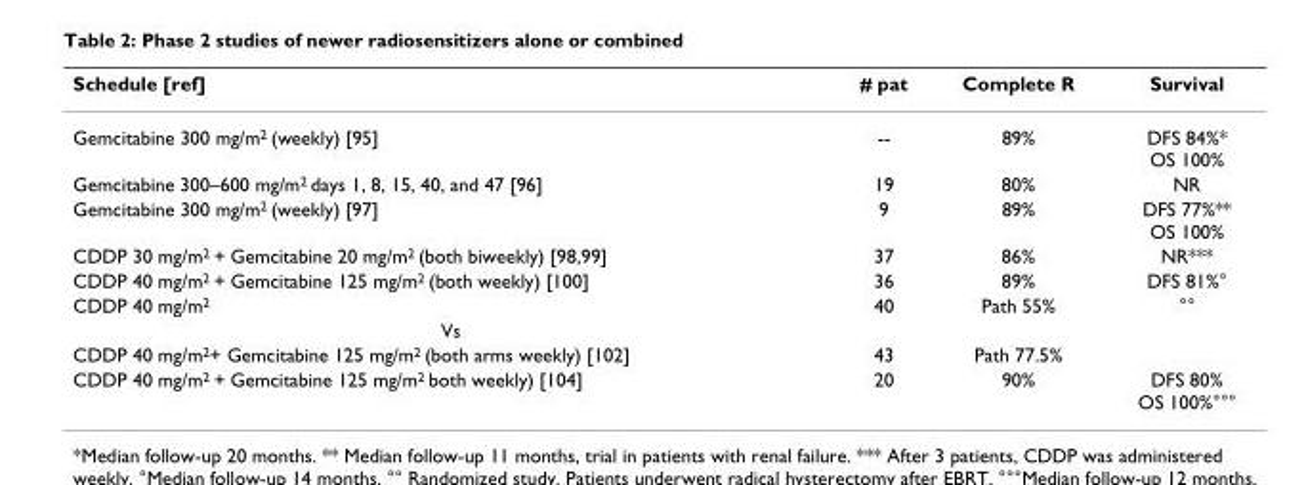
<table><thead><tr><td>Schedule [ref]</td><td># pat</td><td>Complete R</td><td>Survival</td></tr></thead><tbody><tr><td>Gemcitabine 300 mg/m<sup>2</sup> (weekly) [95]</td><td>--</td><td>89%</td><td>DFS 84%* OS 100%</td></tr><tr><td>Gemcitabine 300–600 mg/m<sup>2</sup> days 1, 8, 15, 40, and 47 [96]</td><td>19</td><td>80%</td><td>NR</td></tr><tr><td>Gemcitabine 300 mg/m<sup>2</sup> (weekly) [97]</td><td>9</td><td>89%</td><td>DFS 77%** OS 100%</td></tr><tr><td>CDDP 30 mg/m<sup>2</sup> + Gemcitabine 20 mg/m<sup>2</sup> (both biweekly) [98,99]</td><td>37</td><td>86%</td><td>NR***</td></tr><tr><td>CDDP 40 mg/m<sup>2</sup> + Gemcitabine 125 mg/m<sup>2</sup> (both weekly) [100]</td><td>36</td><td>89%</td><td>DFS 81%°</td></tr><tr><td>CDDP 40 mg/m<sup>2</sup></td><td>40</td><td>Path 55%</td><td>°°</td></tr><tr><td colspan="4">Vs</td></tr><tr><td>CDDP 40 mg/m<sup>2</sup>+ Gemcitabine 125 mg/m<sup>2</sup> (both arms weekly) [102]</td><td>43</td><td>Path 77.5%</td><td></td></tr><tr><td>CDDP 40 mg/m<sup>2</sup> + Gemcitabine 125 mg/m<sup>2</sup> both weekly) [104]</td><td>20</td><td>90%</td><td>DFS 80% OS 100%°°°</td></tr></tbody></table>